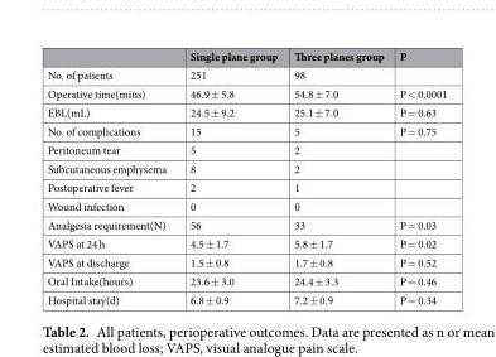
<table><thead><tr><td></td><td>Single plane group</td><td>Three planes group</td><td>P</td></tr></thead><tbody><tr><td>No. of patients</td><td>251</td><td>98</td><td></td></tr><tr><td>Operative time(mins)</td><td>46.9 ± 5.8</td><td>54.8 ± 7.0</td><td>P &lt; 0.0001</td></tr><tr><td>EBL(mL)</td><td>24.5 ± 9.2</td><td>25.1 ± 7.0</td><td>P = 0.63</td></tr><tr><td>No. of complications</td><td>15</td><td>5</td><td>P = 0.75</td></tr><tr><td>Peritoneum tear</td><td>5</td><td>2</td><td></td></tr><tr><td>Subcutaneous emphysema</td><td>8</td><td>2</td><td></td></tr><tr><td>Postoperative fever</td><td>2</td><td>1</td><td></td></tr><tr><td>Wound infection</td><td>0</td><td>0</td><td></td></tr><tr><td>Analgesia requirement(N)</td><td>56</td><td>33</td><td>P = 0.03</td></tr><tr><td>VAPS at 24 h</td><td>4.5 ± 1.7</td><td>5.8 ± 1.7</td><td>P = 0.02</td></tr><tr><td>VAPS at discharge</td><td>1.5 ± 0.8</td><td>1.7 ± 0.8</td><td>P = 0.52</td></tr><tr><td>Oral Intake(hours)</td><td>23.6 ± 3.0</td><td>24.4 ± 3.3</td><td>P = 0.46</td></tr><tr><td>Hospital stay(d)</td><td>6.8 ± 0.9</td><td>7.2 ± 0.9</td><td>P = 0.34</td></tr></tbody></table>